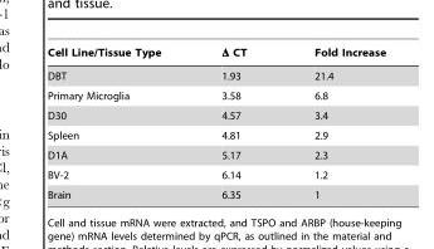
<table><thead><tr><td>Cell Line/Tissue Type</td><td>Δ CT</td><td>Fold Increase</td></tr></thead><tbody><tr><td>DBT</td><td>1.93</td><td>21.4</td></tr><tr><td>Primary Microglia</td><td>3.58</td><td>6.8</td></tr><tr><td>D30</td><td>4.57</td><td>3.4</td></tr><tr><td>Spleen</td><td>4.81</td><td>2.9</td></tr><tr><td>D1A</td><td>5.17</td><td>2.3</td></tr><tr><td>BV-2</td><td>6.14</td><td>1.2</td></tr><tr><td>Brain</td><td>6.35</td><td>1</td></tr></tbody></table>